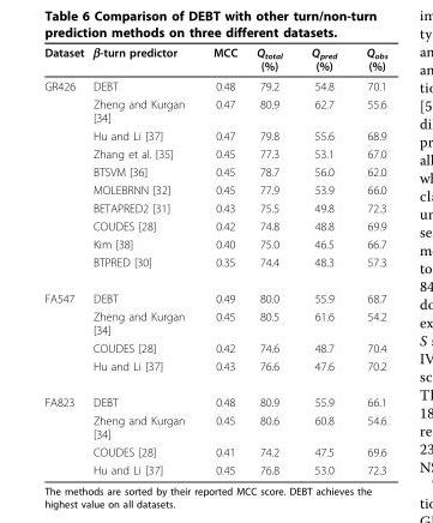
<table><thead><tr><td>Dataset</td><td>β-turn predictor</td><td>MCC</td><td>Q<sub>total</sub> (%)</td><td>Q<sub>pred</sub> (%)</td><td>Q<sub>obs</sub> (%)</td></tr></thead><tbody><tr><td rowspan="10">GR426</td><td>DEBT</td><td>0.48</td><td>79.2</td><td>54.8</td><td>70.1</td></tr><tr><td>Zheng and Kurgan [34]</td><td>0.47</td><td>80.9</td><td>62.7</td><td>55.6</td></tr><tr><td>Hu and Li [37]</td><td>0.47</td><td>79.8</td><td>55.6</td><td>68.9</td></tr><tr><td>Zhang et al. [35]</td><td>0.45</td><td>77.3</td><td>53.1</td><td>67.0</td></tr><tr><td>BTSVM [36]</td><td>0.45</td><td>78.7</td><td>56.0</td><td>62.0</td></tr><tr><td>MOLEBRNN [32]</td><td>0.45</td><td>77.9</td><td>53.9</td><td>66.0</td></tr><tr><td>BETAPRED2 [31]</td><td>0.43</td><td>75.5</td><td>49.8</td><td>72.3</td></tr><tr><td>COUDES [28]</td><td>0.42</td><td>74.8</td><td>48.8</td><td>69.9</td></tr><tr><td>Kim [38]</td><td>0.40</td><td>75.0</td><td>46.5</td><td>66.7</td></tr><tr><td>BTPRED [30]</td><td>0.35</td><td>74.4</td><td>48.3</td><td>57.3</td></tr><tr><td rowspan="4">FA547</td><td>DEBT</td><td>0.49</td><td>80.0</td><td>55.9</td><td>68.7</td></tr><tr><td>Zheng and Kurgan [34]</td><td>0.45</td><td>80.5</td><td>61.6</td><td>54.2</td></tr><tr><td>COUDES [28]</td><td>0.42</td><td>74.6</td><td>48.7</td><td>70.4</td></tr><tr><td>Hu and Li [37]</td><td>0.43</td><td>76.6</td><td>47.6</td><td>70.2</td></tr><tr><td rowspan="4">FA823</td><td>DEBT</td><td>0.48</td><td>80.9</td><td>55.9</td><td>66.1</td></tr><tr><td>Zheng and Kurgan [34]</td><td>0.45</td><td>80.6</td><td>60.8</td><td>54.6</td></tr><tr><td>COUDES [28]</td><td>0.41</td><td>74.2</td><td>47.5</td><td>69.6</td></tr><tr><td>Hu and Li [37]</td><td>0.45</td><td>76.8</td><td>53.0</td><td>72.3</td></tr></tbody></table>